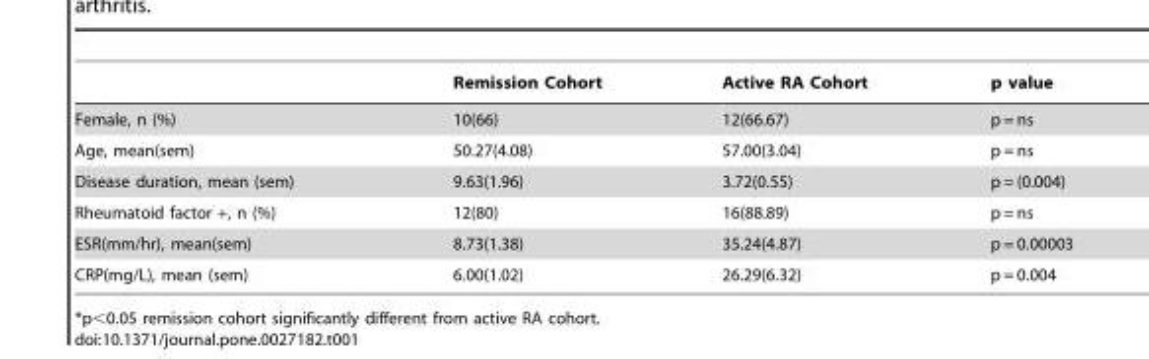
<table><thead><tr><td></td><td>Remission Cohort</td><td>Active RA Cohort</td><td>p value</td></tr></thead><tbody><tr><td>Female, n (%)</td><td>10(66)</td><td>12(66.67)</td><td>p = ns</td></tr><tr><td>Age, mean(sem)</td><td>50.27(4.08)</td><td>57.00(3.04)</td><td>p = ns</td></tr><tr><td>Disease duration, mean (sem)</td><td>9.63(1.96)</td><td>3.72(0.55)</td><td>p = (0.004)</td></tr><tr><td>Rheumatoid factor +, n (%)</td><td>12(80)</td><td>16(88.89)</td><td>p = ns</td></tr><tr><td>ESR(mm/hr), mean(sem)</td><td>8.73(1.38)</td><td>35.24(4.87)</td><td>p = 0.00003</td></tr><tr><td>CRP(mg/L), mean (sem)</td><td>6.00(1.02)</td><td>26.29(6.32)</td><td>p = 0.004</td></tr></tbody></table>